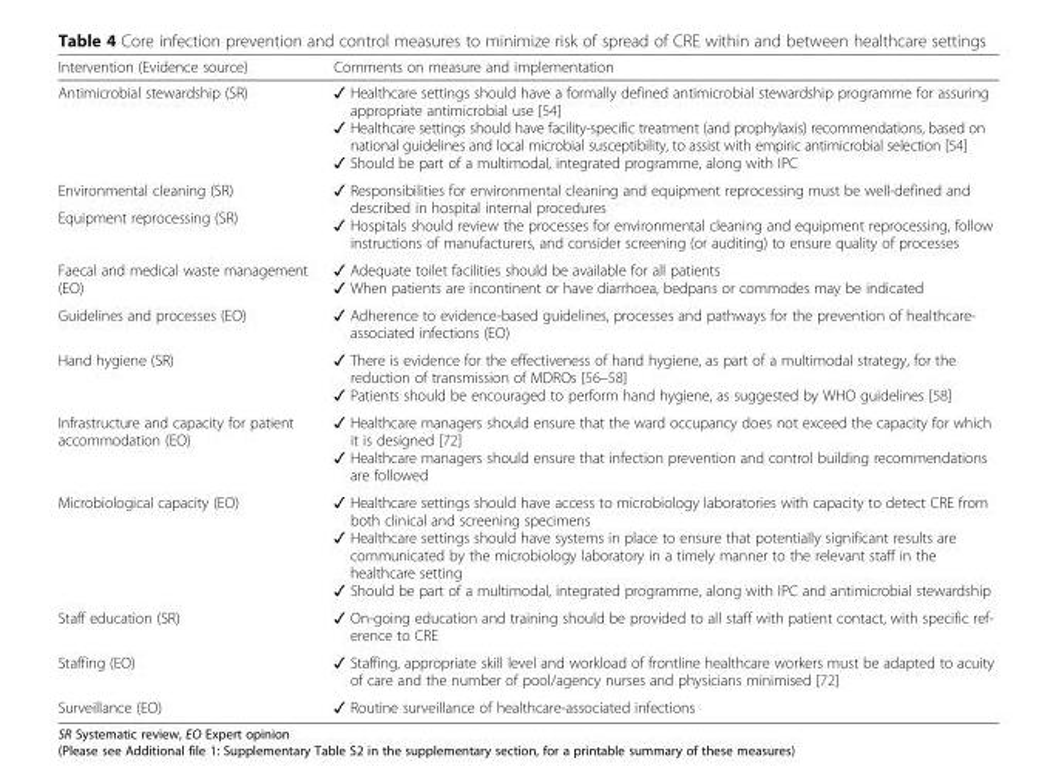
<table><thead><tr><td>Intervention (Evidence source)</td><td>Comments on measure and implementation</td></tr></thead><tbody><tr><td>Antimicrobial stewardship (SR)</td><td>✓ Healthcare settings should have a formally defined antimicrobial stewardship programme for assuring appropriate antimicrobial use [54] ✓ Healthcare settings should have facility-specific treatment (and prophylaxis) recommendations, based on national guidelines and local microbial susceptibility, to assist with empiric antimicrobial selection [54] ✓ Should be part of a multimodal, integrated programme, along with IPC</td></tr><tr><td>Environmental cleaning (SR)</td><td rowspan="2">✓ Responsibilities for environmental cleaning and equipment reprocessing must be well-defined and described in hospital internal procedures ✓ Hospitals should review the processes for environmental cleaning and equipment reprocessing, follow instructions of manufacturers, and consider screening (or auditing) to ensure quality of processes</td></tr><tr><td>Equipment reprocessing (SR)</td></tr><tr><td>Faecal and medical waste management (EO)</td><td>✓ Adequate toilet facilities should be available for all patients ✓ When patients are incontinent or have diarrhoea, bedpans or commodes may be indicated</td></tr><tr><td>Guidelines and processes (EO)</td><td>✓ Adherence to evidence-based guidelines, processes and pathways for the prevention of healthcare- associated infections (EO)</td></tr><tr><td>Hand hygiene (SR)</td><td>✓ There is evidence for the effectiveness of hand hygiene, as part of a multimodal strategy, for the reduction of transmission of MDROs [56–58] ✓ Patients should be encouraged to perform hand hygiene, as suggested by WHO guidelines [58]</td></tr><tr><td>Infrastructure and capacity for patient accommodation (EO)</td><td>✓ Healthcare managers should ensure that the ward occupancy does not exceed the capacity for which it is designed [72] ✓ Healthcare managers should ensure that infection prevention and control building recommendations are followed</td></tr><tr><td>Microbiological capacity (EO)</td><td>✓ Healthcare settings should have access to microbiology laboratories with capacity to detect CRE from both clinical and screening specimens ✓ Healthcare settings should have systems in place to ensure that potentially significant results are communicated by the microbiology laboratory in a timely manner to the relevant staff in the healthcare setting ✓ Should be part of a multimodal, integrated programme, along with IPC and antimicrobial stewardship</td></tr><tr><td>Staff education (SR)</td><td>✓ On-going education and training should be provided to all staff with patient contact, with specific ref- erence to CRE</td></tr><tr><td>Staffing (EO)</td><td>✓ Staffing, appropriate skill level and workload of frontline healthcare workers must be adapted to acuity of care and the number of pool/agency nurses and physicians minimised [72]</td></tr><tr><td>Surveillance (EO)</td><td>✓ Routine surveillance of healthcare-associated infections</td></tr></tbody></table>